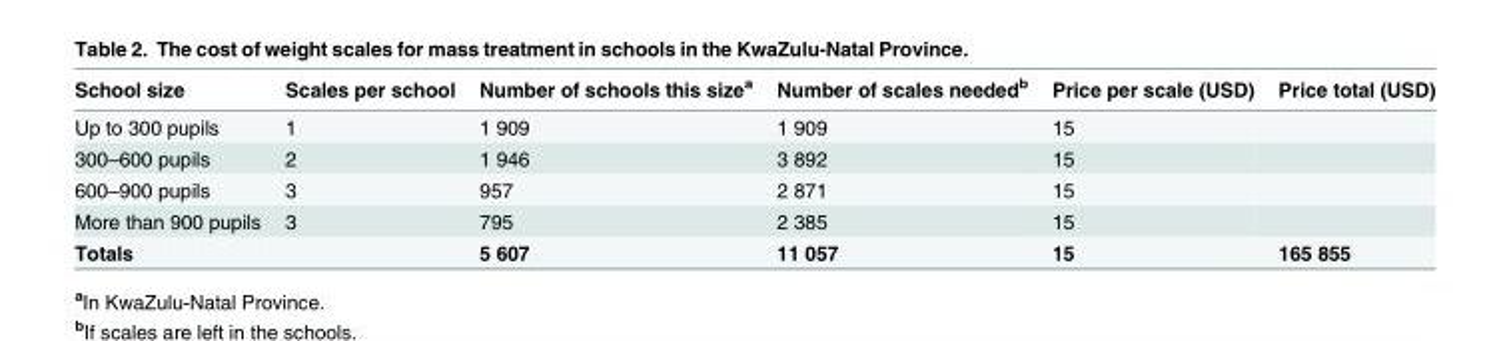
<table><thead><tr><td>School size</td><td>Scales per school</td><td>Number of schools this size<sup>a</sup></td><td>Number of scales needed<sup>b</sup></td><td>Price per scale (USD)</td><td>Price total (USD)</td></tr></thead><tbody><tr><td>Up to 300 pupils</td><td>1</td><td>1 909</td><td>1 909</td><td>15</td><td></td></tr><tr><td>300–600 pupils</td><td>2</td><td>1 946</td><td>3 892</td><td>15</td><td></td></tr><tr><td>600–900 pupils</td><td>3</td><td>957</td><td>2 871</td><td>15</td><td></td></tr><tr><td>More than 900 pupils</td><td>3</td><td>795</td><td>2 385</td><td>15</td><td></td></tr><tr><td>Totals</td><td></td><td>5 607</td><td>11 057</td><td>15</td><td>165 855</td></tr></tbody></table>